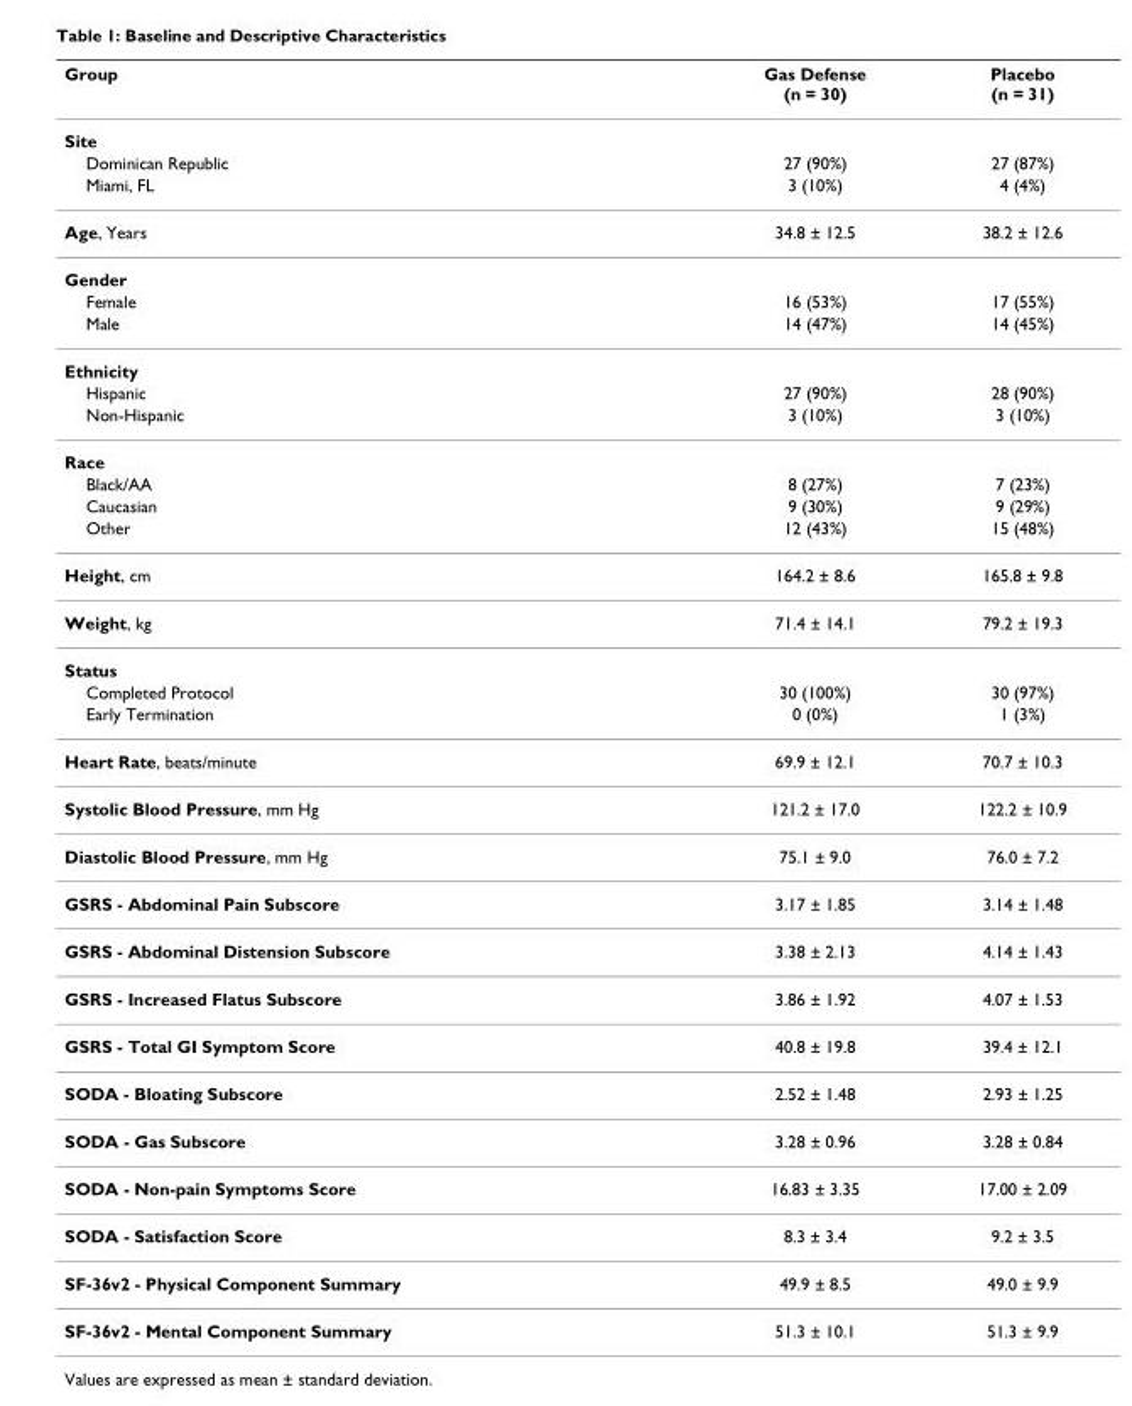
<table><thead><tr><td>Group</td><td>Gas Defense (n = 30)</td><td>Placebo (n = 31)</td></tr></thead><tbody><tr><td colspan="3">Site</td></tr><tr><td>Dominican Republic</td><td>27 (90%)</td><td>27 (87%)</td></tr><tr><td>Miami, FL</td><td>3 (10%)</td><td>4 (4%)</td></tr><tr><td>Age, Years</td><td>34.8 ± 12.5</td><td>38.2 ± 12.6</td></tr><tr><td colspan="3">Gender</td></tr><tr><td>Female</td><td>16 (53%)</td><td>17 (55%)</td></tr><tr><td>Male</td><td>14 (47%)</td><td>14 (45%)</td></tr><tr><td colspan="3">Ethnicity</td></tr><tr><td>Hispanic</td><td>27 (90%)</td><td>28 (90%)</td></tr><tr><td>Non-Hispanic</td><td>3 (10%)</td><td>3 (10%)</td></tr><tr><td colspan="3">Race</td></tr><tr><td>Black/AA</td><td>8 (27%)</td><td>7 (23%)</td></tr><tr><td>Caucasian</td><td>9 (30%)</td><td>9 (29%)</td></tr><tr><td>Other</td><td>12 (43%)</td><td>15 (48%)</td></tr><tr><td>Height, cm</td><td>164.2 ± 8.6</td><td>165.8 ± 9.8</td></tr><tr><td>Weight, kg</td><td>71.4 ± 14.1</td><td>79.2 ± 19.3</td></tr><tr><td colspan="3">Status</td></tr><tr><td>Completed Protocol</td><td>30 (100%)</td><td>30 (97%)</td></tr><tr><td>Early Termination</td><td>0 (0%)</td><td>1 (3%)</td></tr><tr><td>Heart Rate, beats/minute</td><td>69.9 ± 12.1</td><td>70.7 ± 10.3</td></tr><tr><td>Systolic Blood Pressure, mm Hg</td><td>121.2 ± 17.0</td><td>122.2 ± 10.9</td></tr><tr><td>Diastolic Blood Pressure, mm Hg</td><td>75.1 ± 9.0</td><td>76.0 ± 7.2</td></tr><tr><td>GSRS - Abdominal Pain Subscore</td><td>3.17 ± 1.85</td><td>3.14 ± 1.48</td></tr><tr><td>GSRS - Abdominal Distension Subscore</td><td>3.38 ± 2.13</td><td>4.14 ± 1.43</td></tr><tr><td>GSRS - Increased Flatus Subscore</td><td>3.86 ± 1.92</td><td>4.07 ± 1.53</td></tr><tr><td>GSRS - Total GI Symptom Score</td><td>40.8 ± 19.8</td><td>39.4 ± 12.1</td></tr><tr><td>SODA - Bloating Subscore</td><td>2.52 ± 1.48</td><td>2.93 ± 1.25</td></tr><tr><td>SODA - Gas Subscore</td><td>3.28 ± 0.96</td><td>3.28 ± 0.84</td></tr><tr><td>SODA - Non-pain Symptoms Score</td><td>16.83 ± 3.35</td><td>17.00 ± 2.09</td></tr><tr><td>SODA - Satisfaction Score</td><td>8.3 ± 3.4</td><td>9.2 ± 3.5</td></tr><tr><td>SF-36v2 - Physical Component Summary</td><td>49.9 ± 8.5</td><td>49.0 ± 9.9</td></tr><tr><td>SF-36v2 - Mental Component Summary</td><td>51.3 ± 10.1</td><td>51.3 ± 9.9</td></tr></tbody></table>